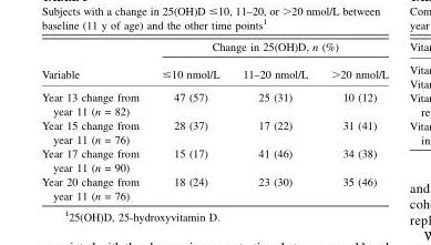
<table><thead><tr><td rowspan="2">Variable</td><td colspan="3">Change in 25(OH)D, n (%)</td></tr><tr><td>≤10 nmol/L</td><td>11–20 nmol/L</td><td>&gt;20 nmol/L</td></tr></thead><tbody><tr><td>Year 13 change from year 11 (n = 82)</td><td>47 (57)</td><td>25 (31)</td><td>10 (12)</td></tr><tr><td>Year 15 change from year 11 (n = 76)</td><td>28 (37)</td><td>17 (22)</td><td>31 (41)</td></tr><tr><td>Year 17 change from year 11 (n = 90)</td><td>15 (17)</td><td>41 (46)</td><td>34 (38)</td></tr><tr><td>Year 20 change from year 11 (n = 76)</td><td>18 (24)</td><td>23 (30)</td><td>35 (46)</td></tr></tbody></table>